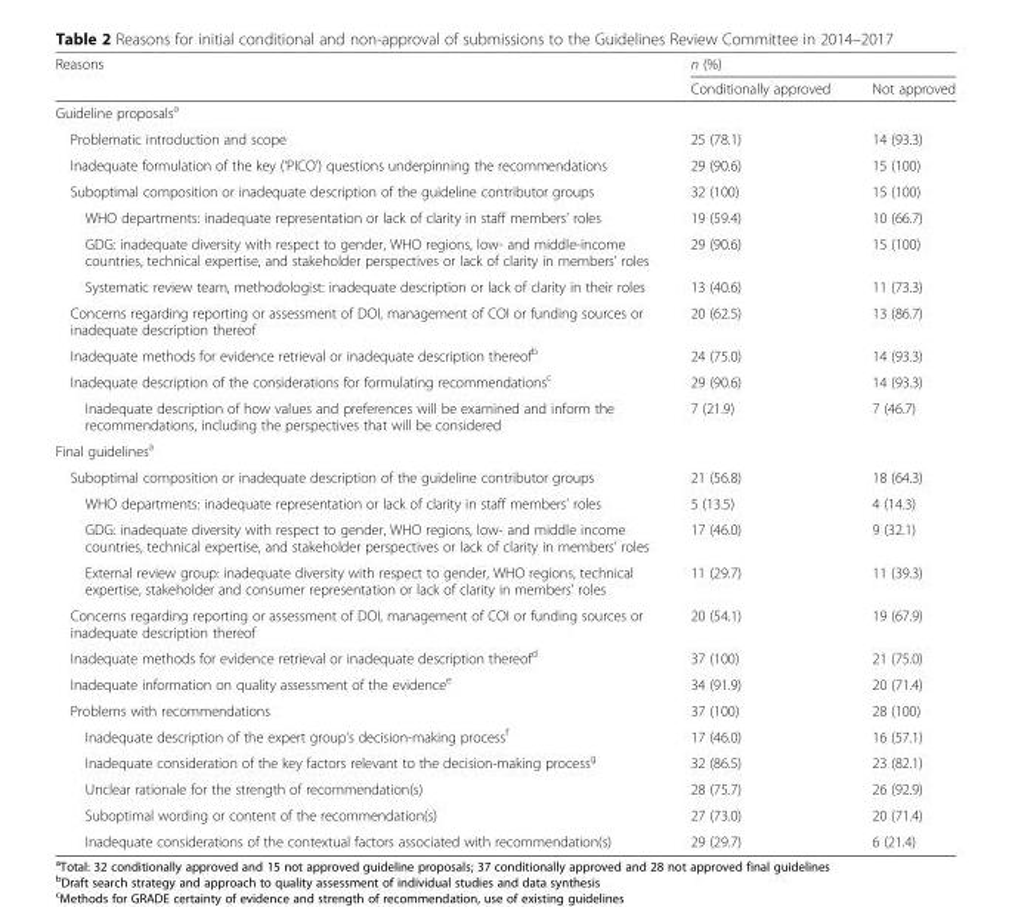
<table><thead><tr><td rowspan="2">Reasons</td><td colspan="2">n (%)</td></tr><tr><td>Conditionally approved</td><td>Not approved</td></tr></thead><tbody><tr><td colspan="3">Guideline proposals<sup>a</sup></td></tr><tr><td>Problematic introduction and scope</td><td>25 (78.1)</td><td>14 (93.3)</td></tr><tr><td>Inadequate formulation of the key (‘PICO’) questions underpinning the recommendations</td><td>29 (90.6)</td><td>15 (100)</td></tr><tr><td>Suboptimal composition or inadequate description of the guideline contributor groups</td><td>32 (100)</td><td>15 (100)</td></tr><tr><td>WHO departments: inadequate representation or lack of clarity in staff members’ roles</td><td>19 (59.4)</td><td>10 (66.7)</td></tr><tr><td>GDG: inadequate diversity with respect to gender, WHO regions, low- and middle-income countries, technical expertise, and stakeholder perspectives or lack of clarity in members’ roles</td><td>29 (90.6)</td><td>15 (100)</td></tr><tr><td>Systematic review team, methodologist: inadequate description or lack of clarity in their roles</td><td>13 (40.6)</td><td>11 (73.3)</td></tr><tr><td>Concerns regarding reporting or assessment of DOI, management of COI or funding sources or inadequate description thereof</td><td>20 (62.5)</td><td>13 (86.7)</td></tr><tr><td>Inadequate methods for evidence retrieval or inadequate description thereof<sup>b</sup></td><td>24 (75.0)</td><td>14 (93.3)</td></tr><tr><td>Inadequate description of the considerations for formulating recommendations<sup>c</sup></td><td>29 (90.6)</td><td>14 (93.3)</td></tr><tr><td>Inadequate description of how values and preferences will be examined and inform the recommendations, including the perspectives that will be considered</td><td>7 (21.9)</td><td>7 (46.7)</td></tr><tr><td colspan="3">Final guidelines<sup>a</sup></td></tr><tr><td>Suboptimal composition or inadequate description of the guideline contributor groups</td><td>21 (56.8)</td><td>18 (64.3)</td></tr><tr><td>WHO departments: inadequate representation or lack of clarity in staff members’ roles</td><td>5 (13.5)</td><td>4 (14.3)</td></tr><tr><td>GDG: inadequate diversity with respect to gender, WHO regions, low- and middle income countries, technical expertise, and stakeholder perspectives or lack of clarity in members’ roles</td><td>17 (46.0)</td><td>9 (32.1)</td></tr><tr><td>External review group: inadequate diversity with respect to gender, WHO regions, technical expertise, stakeholder and consumer representation or lack of clarity in members’ roles</td><td>11 (29.7)</td><td>11 (39.3)</td></tr><tr><td>Concerns regarding reporting or assessment of DOI, management of COI or funding sources or inadequate description thereof</td><td>20 (54.1)</td><td>19 (67.9)</td></tr><tr><td>Inadequate methods for evidence retrieval or inadequate description thereof<sup>d</sup></td><td>37 (100)</td><td>21 (75.0)</td></tr><tr><td>Inadequate information on quality assessment of the evidence<sup>e</sup></td><td>34 (91.9)</td><td>20 (71.4)</td></tr><tr><td>Problems with recommendations</td><td>37 (100)</td><td>28 (100)</td></tr><tr><td>Inadequate description of the expert group’s decision-making process<sup>f</sup></td><td>17 (46.0)</td><td>16 (57.1)</td></tr><tr><td>Inadequate consideration of the key factors relevant to the decision-making process<sup>g</sup></td><td>32 (86.5)</td><td>23 (82.1)</td></tr><tr><td>Unclear rationale for the strength of recommendation(s)</td><td>28 (75.7)</td><td>26 (92.9)</td></tr><tr><td>Suboptimal wording or content of the recommendation(s)</td><td>27 (73.0)</td><td>20 (71.4)</td></tr><tr><td>Inadequate considerations of the contextual factors associated with recommendation(s)</td><td>29 (29.7)</td><td>6 (21.4)</td></tr></tbody></table>